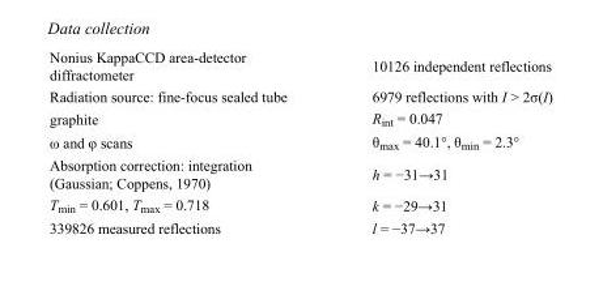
<table><tbody><tr><td>Nonius KappaCCD area-detector diffractometer</td><td>10126 independent reflections</td></tr><tr><td>Radiation source: fine-focus sealed tube</td><td>6979 reflections with I &gt; 2σ(I)</td></tr><tr><td>graphite</td><td>R<sub>int</sub> = 0.047</td></tr><tr><td>ω and φ scans</td><td>θ<sub>max</sub> = 40.1°, θ<sub>min</sub> = 2.3°</td></tr><tr><td>Absorption correction: integration (Gaussian; Coppens, 1970)</td><td>h = −31→31</td></tr><tr><td>T<sub>min</sub> = 0.601, T<sub>max</sub> = 0.718</td><td>k = −29→31</td></tr><tr><td>339826 measured reflections</td><td>l = −37→37</td></tr></tbody></table>